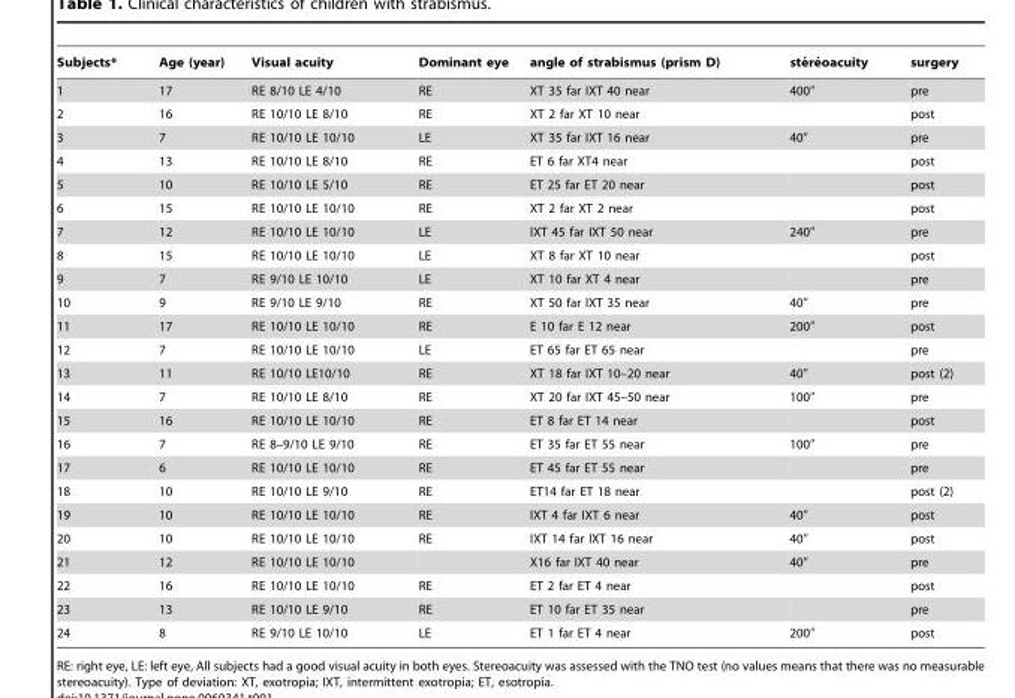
<table><thead><tr><td>Subjects*</td><td>Age (year)</td><td>Visual acuity</td><td>Dominant eye</td><td>angle of strabismus (prism D)</td><td>ste´re´oacuity</td><td>surgery</td></tr></thead><tbody><tr><td>1</td><td>17</td><td>RE 8/10 LE 4/10</td><td>RE</td><td>XT 35 far IXT 40 near</td><td>400″</td><td>pre</td></tr><tr><td>2</td><td>16</td><td>RE 10/10 LE 8/10</td><td>RE</td><td>XT 2 far XT 10 near</td><td></td><td>post</td></tr><tr><td>3</td><td>7</td><td>RE 10/10 LE 10/10</td><td>LE</td><td>XT 35 far IXT 16 near</td><td>40″</td><td>pre</td></tr><tr><td>4</td><td>13</td><td>RE 10/10 LE 8/10</td><td>RE</td><td>ET 6 far XT4 near</td><td></td><td>post</td></tr><tr><td>5</td><td>10</td><td>RE 10/10 LE 5/10</td><td>RE</td><td>ET 25 far ET 20 near</td><td></td><td>post</td></tr><tr><td>6</td><td>15</td><td>RE 10/10 LE 10/10</td><td>RE</td><td>XT 2 far XT 2 near</td><td></td><td>post</td></tr><tr><td>7</td><td>12</td><td>RE 10/10 LE 10/10</td><td>LE</td><td>IXT 45 far IXT 50 near</td><td>240″</td><td>pre</td></tr><tr><td>8</td><td>15</td><td>RE 10/10 LE 10/10</td><td>LE</td><td>XT 8 far XT 10 near</td><td></td><td>post</td></tr><tr><td>9</td><td>7</td><td>RE 9/10 LE 10/10</td><td>LE</td><td>XT 10 far XT 4 near</td><td></td><td>pre</td></tr><tr><td>10</td><td>9</td><td>RE 9/10 LE 9/10</td><td>RE</td><td>XT 50 far IXT 35 near</td><td>40″</td><td>pre</td></tr><tr><td>11</td><td>17</td><td>RE 10/10 LE 10/10</td><td>RE</td><td>E 10 far E 12 near</td><td>200″</td><td>post</td></tr><tr><td>12</td><td>7</td><td>RE 10/10 LE 10/10</td><td>LE</td><td>ET 65 far ET 65 near</td><td></td><td>pre</td></tr><tr><td>13</td><td>11</td><td>RE 10/10 LE10/10</td><td>RE</td><td>XT 18 far IXT 10–20 near</td><td>40″</td><td>post (2)</td></tr><tr><td>14</td><td>7</td><td>RE 10/10 LE 8/10</td><td>RE</td><td>XT 20 far IXT 45–50 near</td><td>100″</td><td>pre</td></tr><tr><td>15</td><td>16</td><td>RE 10/10 LE 10/10</td><td>RE</td><td>ET 8 far ET 14 near</td><td></td><td>post</td></tr><tr><td>16</td><td>7</td><td>RE 8–9/10 LE 9/10</td><td>RE</td><td>ET 35 far ET 55 near</td><td>100″</td><td>pre</td></tr><tr><td>17</td><td>6</td><td>RE 10/10 LE 10/10</td><td>RE</td><td>ET 45 far ET 55 near</td><td></td><td>pre</td></tr><tr><td>18</td><td>10</td><td>RE 10/10 LE 9/10</td><td>RE</td><td>ET14 far ET 18 near</td><td></td><td>post (2)</td></tr><tr><td>19</td><td>10</td><td>RE 10/10 LE 10/10</td><td>RE</td><td>IXT 4 far IXT 6 near</td><td>40″</td><td>post</td></tr><tr><td>20</td><td>10</td><td>RE 10/10 LE 10/10</td><td>RE</td><td>IXT 14 far IXT 16 near</td><td>40″</td><td>post</td></tr><tr><td>21</td><td>12</td><td>RE 10/10 LE 10/10</td><td></td><td>X16 far IXT 40 near</td><td>40″</td><td>pre</td></tr><tr><td>22</td><td>16</td><td>RE 10/10 LE 10/10</td><td>RE</td><td>ET 2 far ET 4 near</td><td></td><td>post</td></tr><tr><td>23</td><td>13</td><td>RE 10/10 LE 9/10</td><td>RE</td><td>ET 10 far ET 35 near</td><td></td><td>pre</td></tr><tr><td>24</td><td>8</td><td>RE 9/10 LE 10/10</td><td>LE</td><td>ET 1 far ET 4 near</td><td>200″</td><td>post</td></tr></tbody></table>